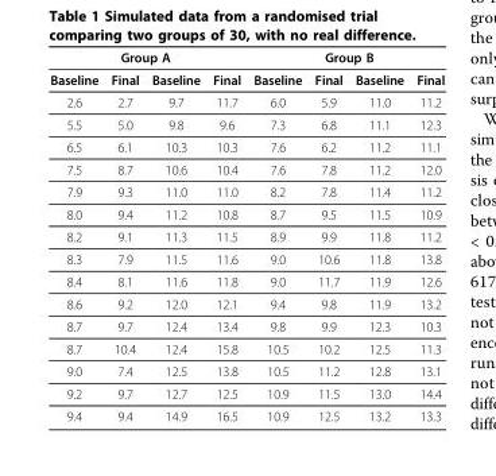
<table><tbody><tr><td colspan="4">Group A</td><td colspan="4">Group B</td></tr><tr><td>Baseline</td><td>Final</td><td>Baseline</td><td>Final</td><td>Baseline</td><td>Final</td><td>Baseline</td><td>Final</td></tr><tr><td>2.6</td><td>2.7</td><td>9.7</td><td>11.7</td><td>6.0</td><td>5.9</td><td>11.0</td><td>11.2</td></tr><tr><td>5.5</td><td>5.0</td><td>9.8</td><td>9.6</td><td>7.3</td><td>6.8</td><td>11.1</td><td>12.3</td></tr><tr><td>6.5</td><td>6.1</td><td>10.3</td><td>10.3</td><td>7.6</td><td>6.2</td><td>11.2</td><td>11.1</td></tr><tr><td>7.5</td><td>8.7</td><td>10.6</td><td>10.4</td><td>7.6</td><td>7.8</td><td>11.2</td><td>12.0</td></tr><tr><td>7.9</td><td>9.3</td><td>11.0</td><td>11.0</td><td>8.2</td><td>7.8</td><td>11.4</td><td>11.2</td></tr><tr><td>8.0</td><td>9.4</td><td>11.2</td><td>10.8</td><td>8.7</td><td>9.5</td><td>11.5</td><td>10.9</td></tr><tr><td>8.2</td><td>9.1</td><td>11.3</td><td>11.5</td><td>8.9</td><td>9.9</td><td>11.8</td><td>11.2</td></tr><tr><td>8.3</td><td>7.9</td><td>11.5</td><td>11.6</td><td>9.0</td><td>10.6</td><td>11.8</td><td>13.8</td></tr><tr><td>8.4</td><td>8.1</td><td>11.6</td><td>11.8</td><td>9.0</td><td>11.7</td><td>11.9</td><td>12.6</td></tr><tr><td>8.6</td><td>9.2</td><td>12.0</td><td>12.1</td><td>9.4</td><td>9.8</td><td>11.9</td><td>13.2</td></tr><tr><td>8.7</td><td>9.7</td><td>12.4</td><td>13.4</td><td>9.8</td><td>9.9</td><td>12.3</td><td>10.3</td></tr><tr><td>8.7</td><td>10.4</td><td>12.4</td><td>15.8</td><td>10.5</td><td>10.2</td><td>12.5</td><td>11.3</td></tr><tr><td>9.0</td><td>7.4</td><td>12.5</td><td>13.8</td><td>10.5</td><td>11.2</td><td>12.8</td><td>13.1</td></tr><tr><td>9.2</td><td>9.7</td><td>12.7</td><td>12.5</td><td>10.9</td><td>11.5</td><td>13.0</td><td>14.4</td></tr><tr><td>9.4</td><td>9.4</td><td>14.9</td><td>16.5</td><td>10.9</td><td>12.5</td><td>13.2</td><td>13.3</td></tr></tbody></table>